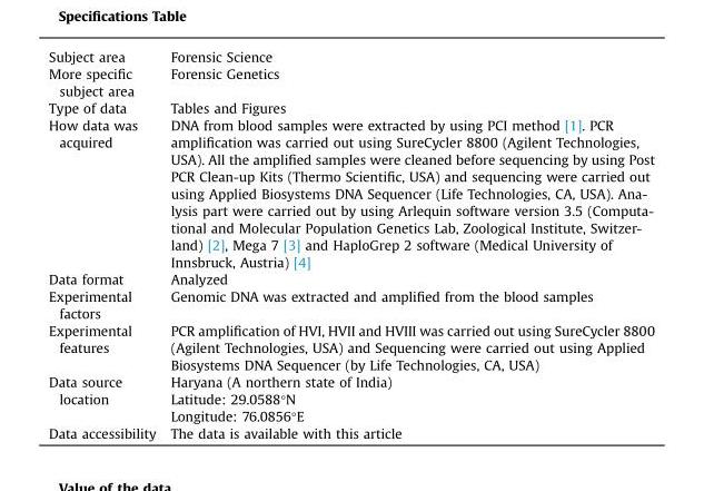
<table><tbody><tr><td>Subject area</td><td>Forensic Science</td></tr><tr><td>More specific subject area</td><td>Forensic Genetics</td></tr><tr><td>Type of data</td><td>Tables and Figures</td></tr><tr><td>How data was acquired</td><td>DNA from blood samples were extracted by using PCI method [1]. PCR amplification was carried out using SureCycler 8800 (Agilent Technologies, USA). All the amplified samples were cleaned before sequencing by using Post PCR Clean-up Kits (Thermo Scientific, USA) and sequencing were carried out using Applied Biosystems DNA Sequencer (Life Technologies, CA, USA). Ana- lysis part were carried out by using Arlequin software version 3.5 (Computa- tional and Molecular Population Genetics Lab, Zoological Institute, Switzer- land) [2], Mega 7 [3] and HaploGrep 2 software (Medical University of Innsbruck, Austria) [4]</td></tr><tr><td>Data format</td><td>Analyzed</td></tr><tr><td>Experimental factors</td><td>Genomic DNA was extracted and amplified from the blood samples</td></tr><tr><td>Experimental features</td><td>PCR amplification of HVI, HVII and HVIII was carried out using SureCycler 8800 (Agilent Technologies, USA) and Sequencing were carried out using Applied Biosystems DNA Sequencer (by Life Technologies, CA, USA)</td></tr><tr><td rowspan="3">Data source location</td><td>Haryana (A northern state of India)</td></tr><tr><td>Latitude: 29.0588°N</td></tr><tr><td>Longitude: 76.0856°E</td></tr><tr><td>Data accessibility</td><td>The data is available with this article</td></tr></tbody></table>